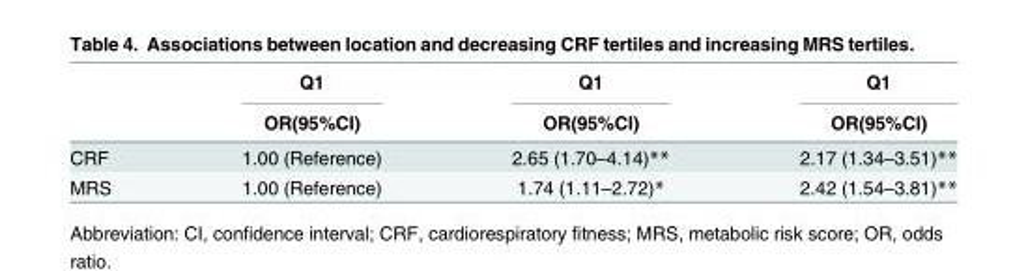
<table><thead><tr><td rowspan="2"></td><td rowspan="2">Q1 OR(95%CI)</td><td rowspan="2">Q1 OR(95%CI)</td><td rowspan="2">Q1 OR(95%CI)</td></tr><tr></tr></thead><tbody><tr><td>CRF</td><td>1.00 (Reference)</td><td>2.65 (1.70–4.14)**</td><td>2.17 (1.34–3.51)**</td></tr><tr><td>MRS</td><td>1.00 (Reference)</td><td>1.74 (1.11–2.72)*</td><td>2.42 (1.54–3.81)**</td></tr></tbody></table>